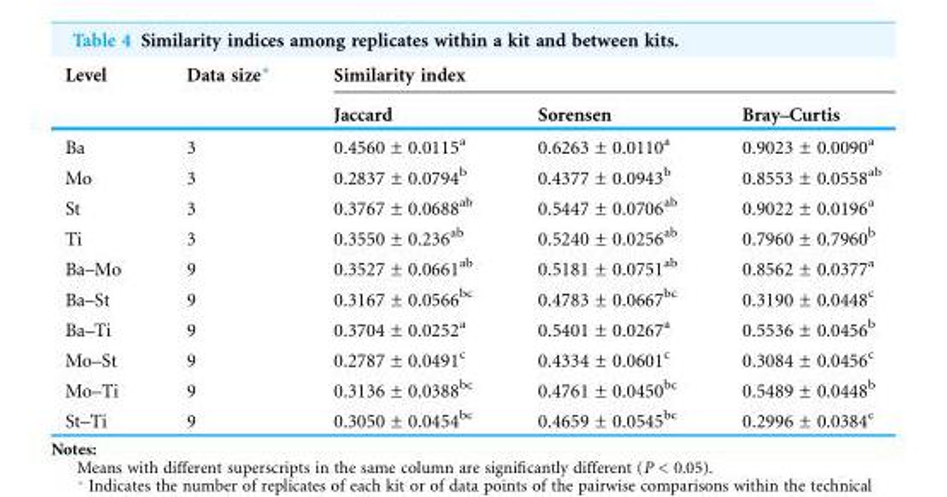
<table><thead><tr><td rowspan="2">Level</td><td rowspan="2">Data size*</td><td colspan="3">Similarity index</td></tr><tr><td>Jaccard</td><td>Sorensen</td><td>Bray–Curtis</td></tr></thead><tbody><tr><td>Ba</td><td>3</td><td>0.4560 ± 0.0115<sup>a</sup></td><td>0.6263 ± 0.0110<sup>a</sup></td><td>0.9023 ± 0.0090<sup>a</sup></td></tr><tr><td>Mo</td><td>3</td><td>0.2837 ± 0.0794<sup>b</sup></td><td>0.4377 ± 0.0943<sup>b</sup></td><td>0.8553 ± 0.0558<sup>ab</sup></td></tr><tr><td>St</td><td>3</td><td>0.3767 ± 0.0688<sup>ab</sup></td><td>0.5447 ± 0.0706<sup>ab</sup></td><td>0.9022 ± 0.0196<sup>a</sup></td></tr><tr><td>Ti</td><td>3</td><td>0.3550 ± 0.236<sup>ab</sup></td><td>0.5240 ± 0.0256<sup>ab</sup></td><td>0.7960 ± 0.7960<sup>b</sup></td></tr><tr><td>Ba–Mo</td><td>9</td><td>0.3527 ± 0.0661<sup>ab</sup></td><td>0.5181 ± 0.0751<sup>ab</sup></td><td>0.8562 ± 0.0377<sup>a</sup></td></tr><tr><td>Ba–St</td><td>9</td><td>0.3167 ± 0.0566<sup>bc</sup></td><td>0.4783 ± 0.0667<sup>bc</sup></td><td>0.3190 ± 0.0448<sup>c</sup></td></tr><tr><td>Ba–Ti</td><td>9</td><td>0.3704 ± 0.0252<sup>a</sup></td><td>0.5401 ± 0.0267<sup>a</sup></td><td>0.5536 ± 0.0456<sup>b</sup></td></tr><tr><td>Mo–St</td><td>9</td><td>0.2787 ± 0.0491<sup>c</sup></td><td>0.4334 ± 0.0601<sup>c</sup></td><td>0.3084 ± 0.0456<sup>c</sup></td></tr><tr><td>Mo–Ti</td><td>9</td><td>0.3136 ± 0.0388<sup>bc</sup></td><td>0.4761 ± 0.0450<sup>bc</sup></td><td>0.5489 ± 0.0448<sup>b</sup></td></tr><tr><td>St–Ti</td><td>9</td><td>0.3050 ± 0.0454<sup>bc</sup></td><td>0.4659 ± 0.0545<sup>bc</sup></td><td>0.2996 ± 0.0384<sup>c</sup></td></tr></tbody></table>